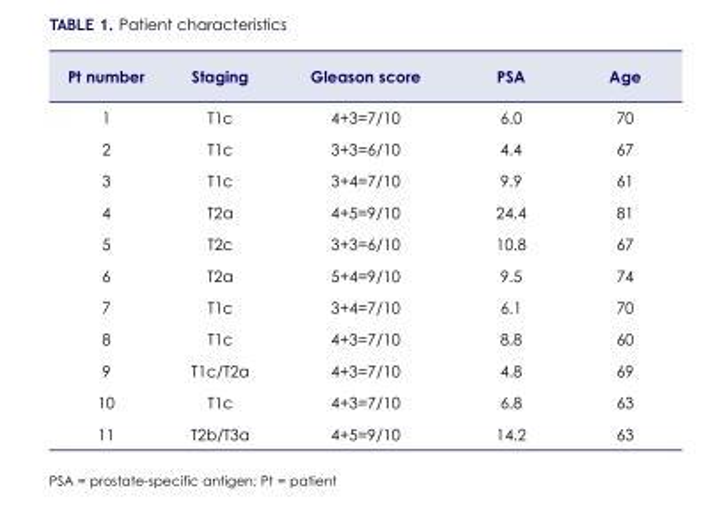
<table><thead><tr><td>Pt number</td><td>Staging</td><td>Gleason score</td><td>PSA</td><td>Age</td></tr></thead><tbody><tr><td>1</td><td>T1c</td><td>4+3=7/10</td><td>6.0</td><td>70</td></tr><tr><td>2</td><td>T1c</td><td>3+3=6/10</td><td>4.4</td><td>67</td></tr><tr><td>3</td><td>T1c</td><td>3+4=7/10</td><td>9.9</td><td>61</td></tr><tr><td>4</td><td>T2a</td><td>4+5=9/10</td><td>24.4</td><td>81</td></tr><tr><td>5</td><td>T2c</td><td>3+3=6/10</td><td>10.8</td><td>67</td></tr><tr><td>6</td><td>T2a</td><td>5+4=9/10</td><td>9.5</td><td>74</td></tr><tr><td>7</td><td>T1c</td><td>3+4=7/10</td><td>6.1</td><td>70</td></tr><tr><td>8</td><td>T1c</td><td>4+3=7/10</td><td>8.8</td><td>60</td></tr><tr><td>9</td><td>T1c/T2a</td><td>4+3=7/10</td><td>4.8</td><td>69</td></tr><tr><td>10</td><td>T1c</td><td>4+3=7/10</td><td>6.8</td><td>63</td></tr><tr><td>11</td><td>T2b/T3a</td><td>4+5=9/10</td><td>14.2</td><td>63</td></tr></tbody></table>